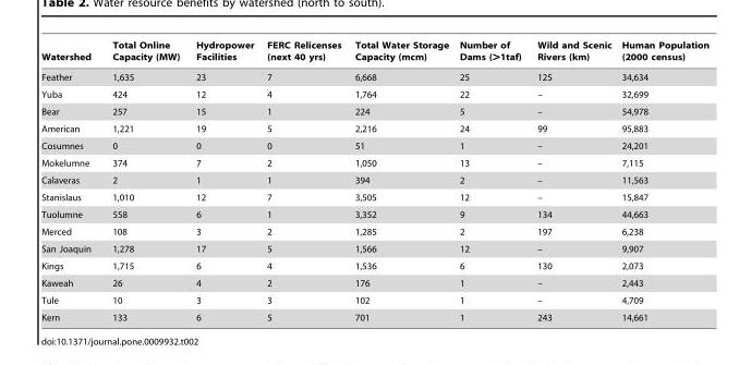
<table><thead><tr><td>Watershed</td><td>Total Online Capacity (MW)</td><td>Hydropower Facilities</td><td>FERC Relicenses (next 40 yrs)</td><td>Total Water Storage Capacity (mcm)</td><td>Number of Dams (&gt;1taf)</td><td>Wild and Scenic Rivers (km)</td><td>Human Population (2000 census)</td></tr></thead><tbody><tr><td>Feather</td><td>1,635</td><td>23</td><td>7</td><td>6,668</td><td>25</td><td>125</td><td>34,634</td></tr><tr><td>Yuba</td><td>424</td><td>12</td><td>4</td><td>1,764</td><td>22</td><td>–</td><td>32,699</td></tr><tr><td>Bear</td><td>257</td><td>15</td><td>1</td><td>224</td><td>5</td><td>–</td><td>54,978</td></tr><tr><td>American</td><td>1,221</td><td>19</td><td>5</td><td>2,216</td><td>24</td><td>99</td><td>95,883</td></tr><tr><td>Cosumnes</td><td>0</td><td>0</td><td>0</td><td>51</td><td>1</td><td>–</td><td>24,201</td></tr><tr><td>Mokelumne</td><td>374</td><td>7</td><td>2</td><td>1,050</td><td>13</td><td>–</td><td>7,115</td></tr><tr><td>Calaveras</td><td>2</td><td>1</td><td>1</td><td>394</td><td>2</td><td>–</td><td>11,563</td></tr><tr><td>Stanislaus</td><td>1,010</td><td>12</td><td>7</td><td>3,505</td><td>12</td><td>–</td><td>15,847</td></tr><tr><td>Tuolumne</td><td>558</td><td>6</td><td>1</td><td>3,352</td><td>9</td><td>134</td><td>44,663</td></tr><tr><td>Merced</td><td>108</td><td>3</td><td>2</td><td>1,285</td><td>2</td><td>197</td><td>6,238</td></tr><tr><td>San Joaquin</td><td>1,278</td><td>17</td><td>5</td><td>1,566</td><td>12</td><td>–</td><td>9,907</td></tr><tr><td>Kings</td><td>1,715</td><td>6</td><td>4</td><td>1,536</td><td>6</td><td>130</td><td>2,073</td></tr><tr><td>Kaweah</td><td>26</td><td>4</td><td>2</td><td>176</td><td>1</td><td>–</td><td>2,443</td></tr><tr><td>Tule</td><td>10</td><td>3</td><td>3</td><td>102</td><td>1</td><td>–</td><td>4,709</td></tr><tr><td>Kern</td><td>133</td><td>6</td><td>5</td><td>701</td><td>1</td><td>243</td><td>14,661</td></tr></tbody></table>